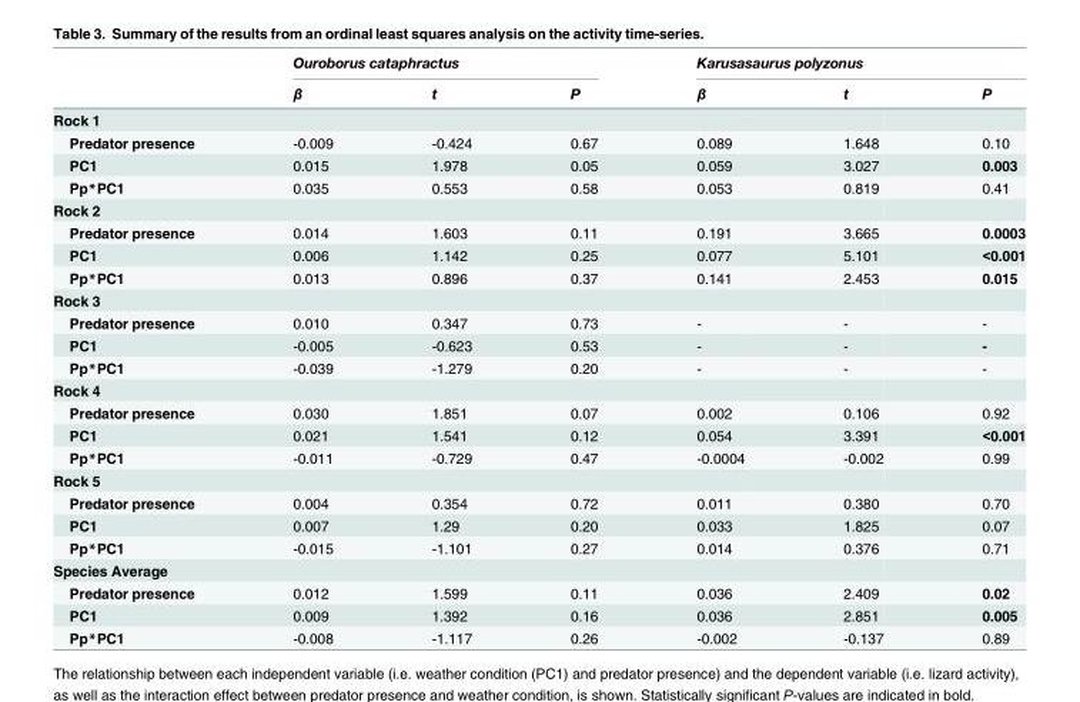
<table><thead><tr><td rowspan="2"></td><td colspan="3">Ouroborus cataphractus</td><td colspan="3">Karusasaurus polyzonus</td></tr><tr><td>β</td><td>t</td><td>P</td><td>β</td><td>t</td><td>P</td></tr></thead><tbody><tr><td colspan="7">Rock 1</td></tr><tr><td>Predator presence</td><td>-0.009</td><td>-0.424</td><td>0.67</td><td>0.089</td><td>1.648</td><td>0.10</td></tr><tr><td>PC1</td><td>0.015</td><td>1.978</td><td>0.05</td><td>0.059</td><td>3.027</td><td>0.003</td></tr><tr><td>Pp*PC1</td><td>0.035</td><td>0.553</td><td>0.58</td><td>0.053</td><td>0.819</td><td>0.41</td></tr><tr><td colspan="7">Rock 2</td></tr><tr><td>Predator presence</td><td>0.014</td><td>1.603</td><td>0.11</td><td>0.191</td><td>3.665</td><td>0.0003</td></tr><tr><td>PC1</td><td>0.006</td><td>1.142</td><td>0.25</td><td>0.077</td><td>5.101</td><td>&lt;0.001</td></tr><tr><td>Pp*PC1</td><td>0.013</td><td>0.896</td><td>0.37</td><td>0.141</td><td>2.453</td><td>0.015</td></tr><tr><td colspan="7">Rock 3</td></tr><tr><td>Predator presence</td><td>0.010</td><td>0.347</td><td>0.73</td><td>-</td><td>-</td><td>-</td></tr><tr><td>PC1</td><td>-0.005</td><td>-0.623</td><td>0.53</td><td>-</td><td>-</td><td>-</td></tr><tr><td>Pp*PC1</td><td>-0.039</td><td>-1.279</td><td>0.20</td><td>-</td><td>-</td><td>-</td></tr><tr><td colspan="7">Rock 4</td></tr><tr><td>Predator presence</td><td>0.030</td><td>1.851</td><td>0.07</td><td>0.002</td><td>0.106</td><td>0.92</td></tr><tr><td>PC1</td><td>0.021</td><td>1.541</td><td>0.12</td><td>0.054</td><td>3.391</td><td>&lt;0.001</td></tr><tr><td>Pp*PC1</td><td>-0.011</td><td>-0.729</td><td>0.47</td><td>-0.0004</td><td>-0.002</td><td>0.99</td></tr><tr><td colspan="7">Rock 5</td></tr><tr><td>Predator presence</td><td>0.004</td><td>0.354</td><td>0.72</td><td>0.011</td><td>0.380</td><td>0.70</td></tr><tr><td>PC1</td><td>0.007</td><td>1.29</td><td>0.20</td><td>0.033</td><td>1.825</td><td>0.07</td></tr><tr><td>Pp*PC1</td><td>-0.015</td><td>-1.101</td><td>0.27</td><td>0.014</td><td>0.376</td><td>0.71</td></tr><tr><td colspan="7">Species Average</td></tr><tr><td>Predator presence</td><td>0.012</td><td>1.599</td><td>0.11</td><td>0.036</td><td>2.409</td><td>0.02</td></tr><tr><td>PC1</td><td>0.009</td><td>1.392</td><td>0.16</td><td>0.036</td><td>2.851</td><td>0.005</td></tr><tr><td>Pp*PC1</td><td>-0.008</td><td>-1.117</td><td>0.26</td><td>-0.002</td><td>-0.137</td><td>0.89</td></tr></tbody></table>